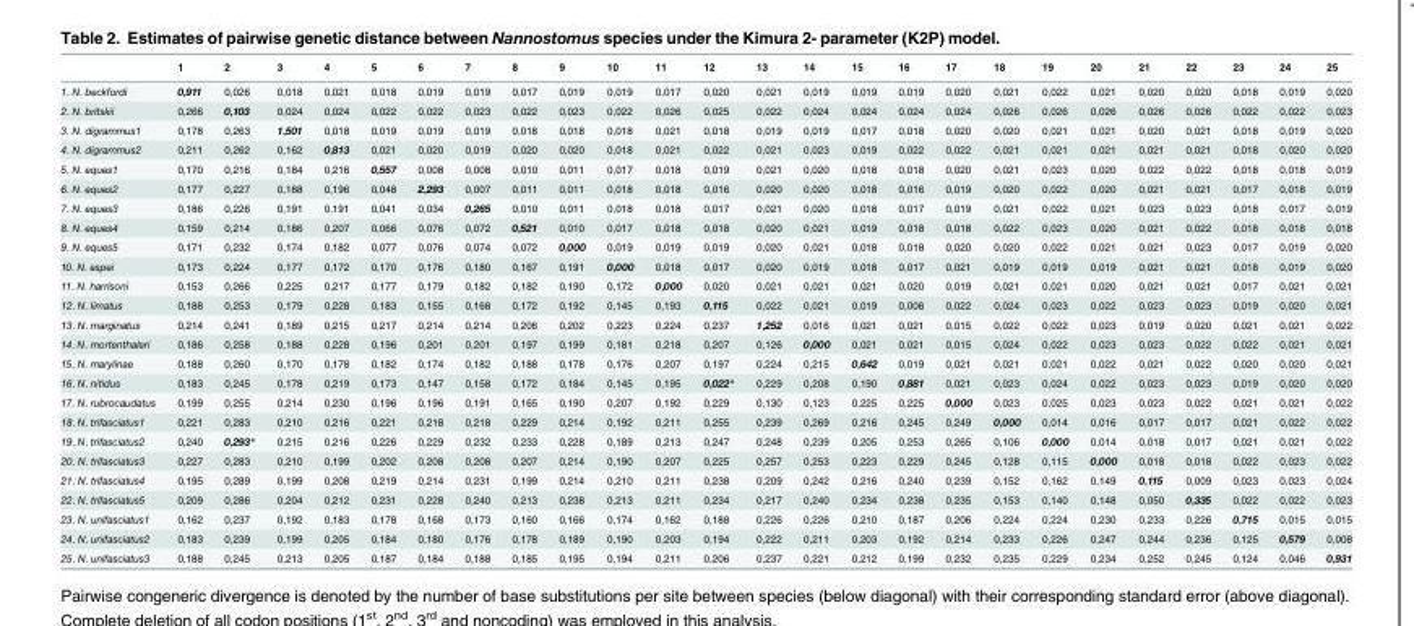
<table><thead><tr><td></td><td>1</td><td>2</td><td>3</td><td>4</td><td>5</td><td>6</td><td>7</td><td>8</td><td>9</td><td>10</td><td>11</td><td>12</td><td>13</td><td>14</td><td>15</td><td>16</td><td>17</td><td>18</td><td>19</td><td>20</td><td>21</td><td>22</td><td>23</td><td>24</td><td>25</td></tr></thead><tbody><tr><td>1. N. beckfordi</td><td>0,911</td><td>0,026</td><td>0,018</td><td>0,021</td><td>0,018</td><td>0,019</td><td>0,019</td><td>0,017</td><td>0,019</td><td>0,019</td><td>0,017</td><td>0,020</td><td>0,021</td><td>0,019</td><td>0,019</td><td>0,019</td><td>0,020</td><td>0,021</td><td>0,022</td><td>0,021</td><td>0,020</td><td>0,020</td><td>0,018</td><td>0,019</td><td>0,020</td></tr><tr><td>2. N. britskii</td><td>0,266</td><td>0,103</td><td>0,024</td><td>0,024</td><td>0,022</td><td>0,022</td><td>0,023</td><td>0,022</td><td>0,023</td><td>0,022</td><td>0,026</td><td>0,025</td><td>0,022</td><td>0,024</td><td>0,024</td><td>0,024</td><td>0,024</td><td>0,026</td><td>0,026</td><td>0,026</td><td>0,026</td><td>0,026</td><td>0,022</td><td>0,022</td><td>0,023</td></tr><tr><td>3. N. digrammus1</td><td>0,178</td><td>0,263</td><td>1,501</td><td>0,018</td><td>0,019</td><td>0,019</td><td>0,019</td><td>0,018</td><td>0,018</td><td>0,018</td><td>0,021</td><td>0,018</td><td>0,019</td><td>0,019</td><td>0,017</td><td>0,018</td><td>0,020</td><td>0,020</td><td>0,021</td><td>0,021</td><td>0,020</td><td>0,021</td><td>0,018</td><td>0,019</td><td>0,020</td></tr><tr><td>4. N. digrammus2</td><td>0,211</td><td>0,262</td><td>0,162</td><td>0,813</td><td>0,021</td><td>0,020</td><td>0,019</td><td>0,020</td><td>0,020</td><td>0,018</td><td>0,021</td><td>0,022</td><td>0,021</td><td>0,023</td><td>0,019</td><td>0,022</td><td>0,022</td><td>0,021</td><td>0,021</td><td>0,021</td><td>0,021</td><td>0,021</td><td>0,018</td><td>0,020</td><td>0,020</td></tr><tr><td>5. N. eques1</td><td>0,170</td><td>0,216</td><td>0,184</td><td>0,216</td><td>0,557</td><td>0,008</td><td>0,008</td><td>0,010</td><td>0,011</td><td>0,017</td><td>0,018</td><td>0,019</td><td>0,021</td><td>0,020</td><td>0,018</td><td>0,018</td><td>0,020</td><td>0,021</td><td>0,023</td><td>0,020</td><td>0,022</td><td>0,022</td><td>0,018</td><td>0,018</td><td>0,019</td></tr><tr><td>6. N. eques2</td><td>0,177</td><td>0,227</td><td>0,188</td><td>0,196</td><td>0,048</td><td>2,293</td><td>0,007</td><td>0,011</td><td>0,011</td><td>0,018</td><td>0,018</td><td>0,016</td><td>0,020</td><td>0,020</td><td>0,018</td><td>0,016</td><td>0,019</td><td>0,020</td><td>0,022</td><td>0,020</td><td>0,021</td><td>0,021</td><td>0,017</td><td>0,018</td><td>0,019</td></tr><tr><td>7. N. eques3</td><td>0,186</td><td>0,226</td><td>0,191</td><td>0,191</td><td>0,041</td><td>0,034</td><td>0,265</td><td>0,010</td><td>0,011</td><td>0,018</td><td>0,018</td><td>0,017</td><td>0,021</td><td>0,020</td><td>0,018</td><td>0,017</td><td>0,019</td><td>0,021</td><td>0,022</td><td>0,021</td><td>0,023</td><td>0,023</td><td>0,018</td><td>0,017</td><td>0,019</td></tr><tr><td>8. N. eques4</td><td>0,159</td><td>0,214</td><td>0,186</td><td>0,207</td><td>0,066</td><td>0,076</td><td>0,072</td><td>0,521</td><td>0,010</td><td>0,017</td><td>0,018</td><td>0,018</td><td>0,020</td><td>0,021</td><td>0,019</td><td>0,018</td><td>0,018</td><td>0,022</td><td>0,023</td><td>0,020</td><td>0,021</td><td>0,022</td><td>0,018</td><td>0,018</td><td>0,018</td></tr><tr><td>9. N. eques5</td><td>0,171</td><td>0,232</td><td>0,174</td><td>0,182</td><td>0,077</td><td>0,076</td><td>0,074</td><td>0,072</td><td>0,000</td><td>0,019</td><td>0,019</td><td>0,019</td><td>0,020</td><td>0,021</td><td>0,018</td><td>0,018</td><td>0,020</td><td>0,020</td><td>0,022</td><td>0,021</td><td>0,021</td><td>0,023</td><td>0,017</td><td>0,019</td><td>0,020</td></tr><tr><td>10. N. espei</td><td>0,173</td><td>0,224</td><td>0,177</td><td>0,172</td><td>0,170</td><td>0,176</td><td>0,180</td><td>0,167</td><td>0,191</td><td>0,000</td><td>0,018</td><td>0,017</td><td>0,020</td><td>0,019</td><td>0,018</td><td>0,017</td><td>0,021</td><td>0,019</td><td>0,019</td><td>0,019</td><td>0,021</td><td>0,021</td><td>0,018</td><td>0,019</td><td>0,020</td></tr><tr><td>11. N. harrisoni</td><td>0,153</td><td>0,266</td><td>0,225</td><td>0,217</td><td>0,177</td><td>0,179</td><td>0,182</td><td>0,182</td><td>0,190</td><td>0,172</td><td>0,000</td><td>0,020</td><td>0,021</td><td>0,021</td><td>0,021</td><td>0,020</td><td>0,019</td><td>0,021</td><td>0,021</td><td>0,020</td><td>0,021</td><td>0,021</td><td>0,017</td><td>0,021</td><td>0,021</td></tr><tr><td>12. N. limatus</td><td>0,188</td><td>0,253</td><td>0,179</td><td>0,228</td><td>0,183</td><td>0,155</td><td>0,168</td><td>0,172</td><td>0,192</td><td>0,145</td><td>0,193</td><td>0,115</td><td>0,022</td><td>0,021</td><td>0,019</td><td>0,006</td><td>0,022</td><td>0,024</td><td>0,023</td><td>0,022</td><td>0,023</td><td>0,023</td><td>0,019</td><td>0,020</td><td>0,021</td></tr><tr><td>13. N. marginatus</td><td>0,214</td><td>0,241</td><td>0,189</td><td>0,215</td><td>0,217</td><td>0,214</td><td>0,214</td><td>0,206</td><td>0,202</td><td>0,223</td><td>0,224</td><td>0,237</td><td>1,252</td><td>0,016</td><td>0,021</td><td>0,021</td><td>0,015</td><td>0,022</td><td>0,022</td><td>0,023</td><td>0,019</td><td>0,020</td><td>0,021</td><td>0,021</td><td>0,022</td></tr><tr><td>14. N. mortenthaleri</td><td>0,186</td><td>0,258</td><td>0,188</td><td>0,228</td><td>0,196</td><td>0,201</td><td>0,201</td><td>0,197</td><td>0,199</td><td>0,181</td><td>0,218</td><td>0,207</td><td>0,126</td><td>0,000</td><td>0,021</td><td>0,021</td><td>0,015</td><td>0,024</td><td>0,022</td><td>0,023</td><td>0,023</td><td>0,022</td><td>0,022</td><td>0,021</td><td>0,021</td></tr><tr><td>15. N. marylinae</td><td>0,188</td><td>0,260</td><td>0,170</td><td>0,178</td><td>0,182</td><td>0,174</td><td>0,182</td><td>0,188</td><td>0,178</td><td>0,176</td><td>0,207</td><td>0,197</td><td>0,224</td><td>0,215</td><td>0,642</td><td>0,019</td><td>0,021</td><td>0,021</td><td>0,021</td><td>0,022</td><td>0,021</td><td>0,022</td><td>0,020</td><td>0,020</td><td>0,021</td></tr><tr><td>16. N. nitidus</td><td>0,183</td><td>0,245</td><td>0,178</td><td>0,219</td><td>0,173</td><td>0,147</td><td>0,158</td><td>0,172</td><td>0,184</td><td>0,145</td><td>0,195</td><td>0,022*</td><td>0,229</td><td>0,208</td><td>0,190</td><td>0,881</td><td>0,021</td><td>0,023</td><td>0,024</td><td>0,022</td><td>0,023</td><td>0,023</td><td>0,019</td><td>0,020</td><td>0,020</td></tr><tr><td>17. N. rubrocaudatus</td><td>0,199</td><td>0,255</td><td>0,214</td><td>0,230</td><td>0,196</td><td>0,196</td><td>0,191</td><td>0,165</td><td>0,190</td><td>0,207</td><td>0,192</td><td>0,229</td><td>0,130</td><td>0,123</td><td>0,225</td><td>0,225</td><td>0,000</td><td>0,023</td><td>0,025</td><td>0,023</td><td>0,023</td><td>0,022</td><td>0,021</td><td>0,021</td><td>0,022</td></tr><tr><td>18. N. trifasciatus1</td><td>0,221</td><td>0,283</td><td>0,210</td><td>0,216</td><td>0,221</td><td>0,218</td><td>0,218</td><td>0,229</td><td>0,214</td><td>0,192</td><td>0,211</td><td>0,255</td><td>0,239</td><td>0,269</td><td>0,216</td><td>0,245</td><td>0,249</td><td>0,000</td><td>0,014</td><td>0,016</td><td>0,017</td><td>0,017</td><td>0,021</td><td>0,022</td><td>0,022</td></tr><tr><td>19. N. trifasciatus2</td><td>0,240</td><td>0,293*</td><td>0,215</td><td>0,216</td><td>0,226</td><td>0,229</td><td>0,232</td><td>0,233</td><td>0,228</td><td>0,189</td><td>0,213</td><td>0,247</td><td>0,248</td><td>0,239</td><td>0,205</td><td>0,253</td><td>0,265</td><td>0,106</td><td>0,000</td><td>0,014</td><td>0,018</td><td>0,017</td><td>0,021</td><td>0,021</td><td>0,022</td></tr><tr><td>20. N. trifasciatus3</td><td>0,227</td><td>0,283</td><td>0,210</td><td>0,199</td><td>0,202</td><td>0,208</td><td>0,208</td><td>0,207</td><td>0,214</td><td>0,190</td><td>0,207</td><td>0,225</td><td>0,257</td><td>0,253</td><td>0,223</td><td>0,229</td><td>0,245</td><td>0,128</td><td>0,115</td><td>0,000</td><td>0,018</td><td>0,018</td><td>0,022</td><td>0,023</td><td>0,022</td></tr><tr><td>21. N. trifasciatus4</td><td>0,195</td><td>0,289</td><td>0,199</td><td>0,208</td><td>0,219</td><td>0,214</td><td>0,231</td><td>0,199</td><td>0,214</td><td>0,210</td><td>0,211</td><td>0,238</td><td>0,209</td><td>0,242</td><td>0,216</td><td>0,240</td><td>0,239</td><td>0,152</td><td>0,162</td><td>0,149</td><td>0,115</td><td>0,009</td><td>0,023</td><td>0,023</td><td>0,024</td></tr><tr><td>22. N. trifasciatus5</td><td>0,209</td><td>0,286</td><td>0,204</td><td>0,212</td><td>0,231</td><td>0,228</td><td>0,240</td><td>0,213</td><td>0,238</td><td>0,213</td><td>0,211</td><td>0,234</td><td>0,217</td><td>0,240</td><td>0,234</td><td>0,238</td><td>0,235</td><td>0,153</td><td>0,140</td><td>0,148</td><td>0,050</td><td>0,335</td><td>0,022</td><td>0,022</td><td>0,023</td></tr><tr><td>23. N. unifasciatus1</td><td>0,162</td><td>0,237</td><td>0,192</td><td>0,183</td><td>0,178</td><td>0,168</td><td>0,173</td><td>0,160</td><td>0,166</td><td>0,174</td><td>0,162</td><td>0,188</td><td>0,226</td><td>0,226</td><td>0,210</td><td>0,187</td><td>0,206</td><td>0,224</td><td>0,224</td><td>0,230</td><td>0,233</td><td>0,226</td><td>0,715</td><td>0,015</td><td>0,015</td></tr><tr><td>24. N. unifasciatus2</td><td>0,183</td><td>0,239</td><td>0,199</td><td>0,205</td><td>0,184</td><td>0,180</td><td>0,176</td><td>0,178</td><td>0,189</td><td>0,190</td><td>0,203</td><td>0,194</td><td>0,222</td><td>0,211</td><td>0,203</td><td>0,192</td><td>0,214</td><td>0,233</td><td>0,226</td><td>0,247</td><td>0,244</td><td>0,236</td><td>0,125</td><td>0,579</td><td>0,008</td></tr><tr><td>25. N. unifasciatus3</td><td>0,188</td><td>0,245</td><td>0,213</td><td>0,205</td><td>0,187</td><td>0,184</td><td>0,188</td><td>0,185</td><td>0,195</td><td>0,194</td><td>0,211</td><td>0,206</td><td>0,237</td><td>0,221</td><td>0,212</td><td>0,199</td><td>0,232</td><td>0,235</td><td>0,229</td><td>0,234</td><td>0,252</td><td>0,245</td><td>0,124</td><td>0,046</td><td>0,931</td></tr></tbody></table>